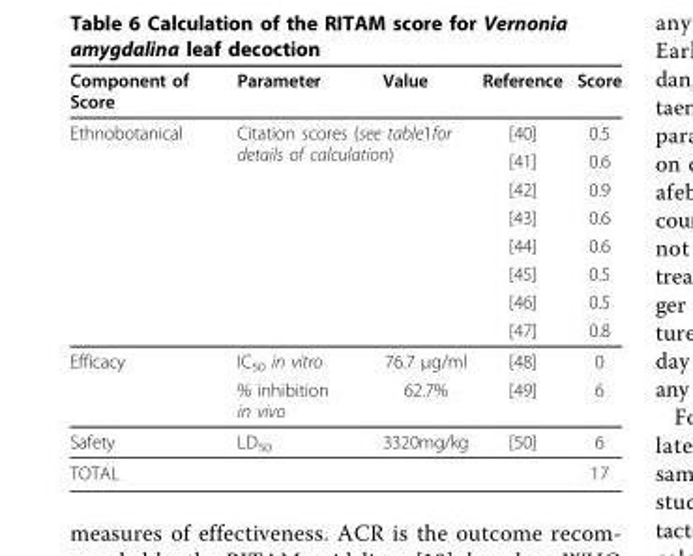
<table><thead><tr><td>Component of Score</td><td>Parameter</td><td>Value</td><td>Reference</td><td>Score</td></tr></thead><tbody><tr><td rowspan="8">Ethnobotanical</td><td rowspan="8" colspan="2">Citation scores (see table1for details of calculation)</td><td>[40]</td><td>0.5</td></tr><tr><td>[41]</td><td>0.6</td></tr><tr><td>[42]</td><td>0.9</td></tr><tr><td>[43]</td><td>0.6</td></tr><tr><td>[44]</td><td>0.6</td></tr><tr><td>[45]</td><td>0.5</td></tr><tr><td>[46]</td><td>0.5</td></tr><tr><td>[47]</td><td>0.8</td></tr><tr><td rowspan="2">Efficacy</td><td>IC<sub>50</sub> in vitro</td><td>76.7 µg/ml</td><td>[48]</td><td>0</td></tr><tr><td>% inhibition in vivo</td><td>62.7%</td><td>[49]</td><td>6</td></tr><tr><td>Safety</td><td>LD<sub>50</sub></td><td>3320mg/kg</td><td>[50]</td><td>6</td></tr><tr><td colspan="4">TOTAL</td><td>17</td></tr></tbody></table>